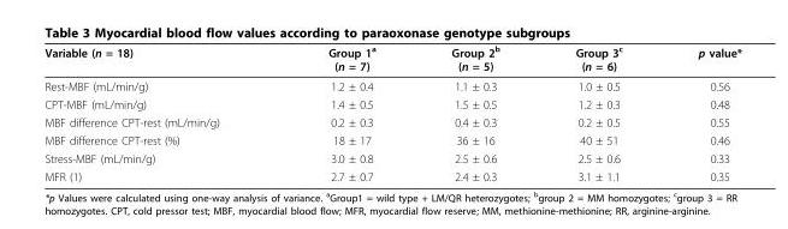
<table><thead><tr><td>Variable (n = 18)</td><td>Group 1<sup>a</sup> (n = 7)</td><td>Group 2<sup>b</sup> (n = 5)</td><td>Group 3<sup>c</sup> (n = 6)</td><td>p value*</td></tr></thead><tbody><tr><td>Rest-MBF (mL/min/g)</td><td>1.2 ± 0.4</td><td>1.1 ± 0.3</td><td>1.0 ± 0.5</td><td>0.56</td></tr><tr><td>CPT-MBF (mL/min/g)</td><td>1.4 ± 0.5</td><td>1.5 ± 0.5</td><td>1.2 ± 0.3</td><td>0.48</td></tr><tr><td>MBF difference CPT-rest (mL/min/g)</td><td>0.2 ± 0.3</td><td>0.4 ± 0.3</td><td>0.2 ± 0.5</td><td>0.55</td></tr><tr><td>MBF difference CPT-rest (%)</td><td>18 ± 17</td><td>36 ± 16</td><td>40 ± 51</td><td>0.46</td></tr><tr><td>Stress-MBF (mL/min/g)</td><td>3.0 ± 0.8</td><td>2.5 ± 0.6</td><td>2.5 ± 0.6</td><td>0.33</td></tr><tr><td>MFR (1)</td><td>2.7 ± 0.7</td><td>2.4 ± 0.3</td><td>3.1 ± 1.1</td><td>0.35</td></tr></tbody></table>